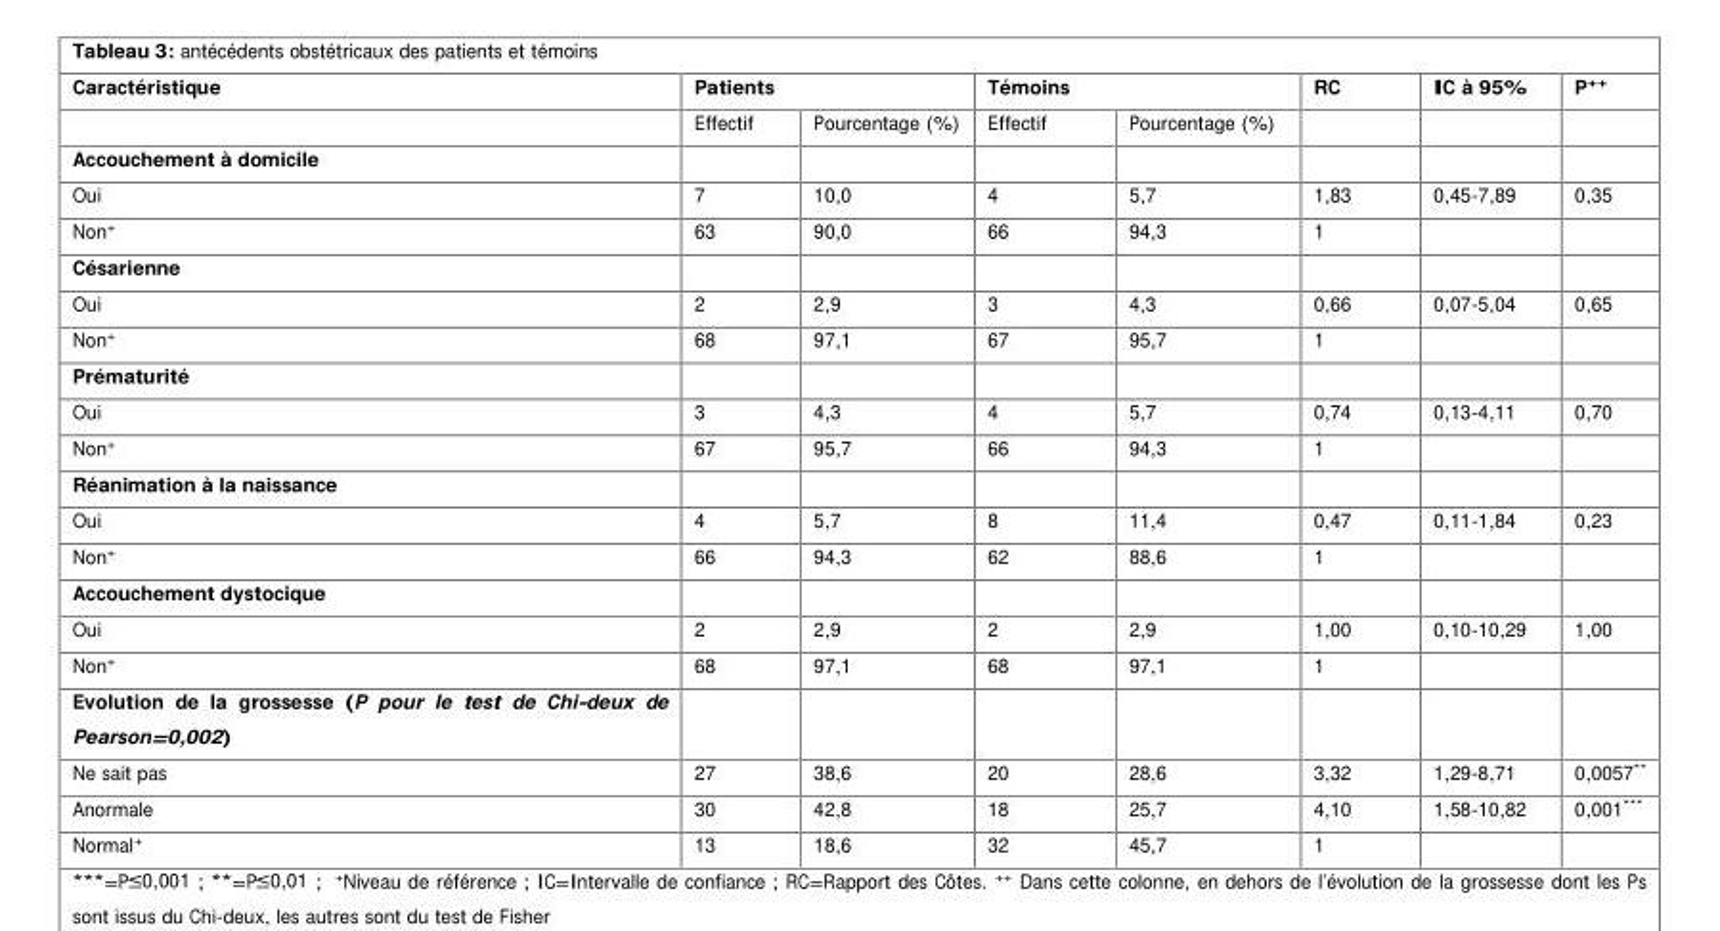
<table><thead><tr><td rowspan="2">Caractéristique</td><td colspan="2">Patients</td><td colspan="2">Témoins</td><td rowspan="2">RC</td><td rowspan="2">IC à 95%</td><td rowspan="2">P++</td></tr><tr><td>Effectif</td><td>Pourcentage (%)</td><td>Effectif</td><td>Pourcentage (%)</td></tr></thead><tbody><tr><td colspan="8">Accouchement à domicile</td></tr><tr><td>Oui</td><td>7</td><td>10,0</td><td>4</td><td>5,7</td><td>1,83</td><td>0,45-7,89</td><td>0,35</td></tr><tr><td>Non+</td><td>63</td><td>90,0</td><td>66</td><td>94,3</td><td>1</td><td></td><td></td></tr><tr><td colspan="8">Césarienne</td></tr><tr><td>Oui</td><td>2</td><td>2,9</td><td>3</td><td>4,3</td><td>0,66</td><td>0,07-5,04</td><td>0,65</td></tr><tr><td>Non+</td><td>68</td><td>97,1</td><td>67</td><td>95,7</td><td>1</td><td></td><td></td></tr><tr><td colspan="8">Prématurité</td></tr><tr><td>Oui</td><td>3</td><td>4,3</td><td>4</td><td>5,7</td><td>0,74</td><td>0,13-4,11</td><td>0,70</td></tr><tr><td>Non+</td><td>67</td><td>95,7</td><td>66</td><td>94,3</td><td>1</td><td></td><td></td></tr><tr><td colspan="8">Réanimation à la naissance</td></tr><tr><td>Oui</td><td>4</td><td>5,7</td><td>8</td><td>11,4</td><td>0,47</td><td>0,11-1,84</td><td>0,23</td></tr><tr><td>Non+</td><td>66</td><td>94,3</td><td>62</td><td>88,6</td><td>1</td><td></td><td></td></tr><tr><td colspan="8">Accouchement dystocique</td></tr><tr><td>Oui</td><td>2</td><td>2,9</td><td>2</td><td>2,9</td><td>1,00</td><td>0,10-10,29</td><td>1,00</td></tr><tr><td>Non+</td><td>68</td><td>97,1</td><td>68</td><td>97,1</td><td>1</td><td></td><td></td></tr><tr><td colspan="8">Evolution de la grossesse (P pour le test de Chi-deux de Pearson=0,002)</td></tr><tr><td>Ne sait pas</td><td>27</td><td>38,6</td><td>20</td><td>28,6</td><td>3,32</td><td>1,29-8,71</td><td>0,0057**</td></tr><tr><td>Anormale</td><td>30</td><td>42,8</td><td>18</td><td>25,7</td><td>4,10</td><td>1,58-10,82</td><td>0,001***</td></tr><tr><td>Normal+</td><td>13</td><td>18,6</td><td>32</td><td>45,7</td><td>1</td><td></td><td></td></tr></tbody></table>